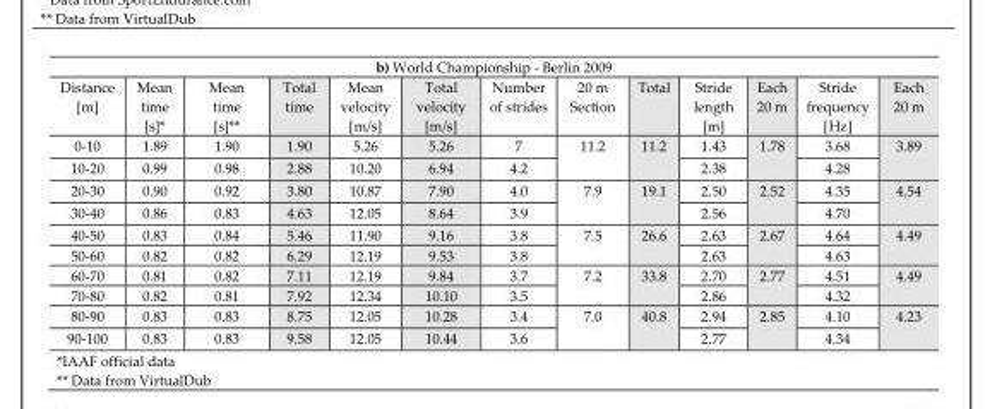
<table><thead><tr><td colspan="13">b) World Championship - Berlin 2009</td></tr><tr><td>Distance [m]</td><td>Mean time [s]*</td><td>Mean time [s]**</td><td>Total time</td><td>Mean velocity [m/s]</td><td>Total velocity [m/s]</td><td>Number of strides</td><td>20 m Section</td><td>Total</td><td>Stride length [m]</td><td>Each 20 m</td><td>Stride frequency [Hz]</td><td>Each 20 m</td></tr></thead><tbody><tr><td>0-10</td><td>1.89</td><td>1.90</td><td>1.90</td><td>5.26</td><td>5.26</td><td>7</td><td rowspan="2">11.2</td><td rowspan="2">11.2</td><td>1.43</td><td rowspan="2">1.78</td><td>3.68</td><td rowspan="2">3.89</td></tr><tr><td>10-20</td><td>0.99</td><td>0.98</td><td>2.88</td><td>10.20</td><td>6.94</td><td>4.2</td><td>2.38</td><td>4.28</td></tr><tr><td>20-30</td><td>0.90</td><td>0.92</td><td>3.80</td><td>10.87</td><td>7.90</td><td>4.0</td><td rowspan="2">7.9</td><td rowspan="2">19.1</td><td>2.50</td><td rowspan="2">2.52</td><td>4.35</td><td rowspan="2">4.54</td></tr><tr><td>30-40</td><td>0.86</td><td>0.83</td><td>4.63</td><td>12.05</td><td>8.64</td><td>3.9</td><td>2.56</td><td>4.70</td></tr><tr><td>40-50</td><td>0.83</td><td>0.84</td><td>5.46</td><td>11.90</td><td>9.16</td><td>3.8</td><td rowspan="2">7.5</td><td rowspan="2">26.6</td><td>2.63</td><td rowspan="2">2.67</td><td>4.64</td><td rowspan="2">4.49</td></tr><tr><td>50-60</td><td>0.82</td><td>0.82</td><td>6.29</td><td>12.19</td><td>9.53</td><td>3.8</td><td>2.63</td><td>4.63</td></tr><tr><td>60-70</td><td>0.81</td><td>0.82</td><td>7.11</td><td>12.19</td><td>9.84</td><td>3.7</td><td rowspan="2">7.2</td><td rowspan="2">33.8</td><td>2.70</td><td rowspan="2">2.77</td><td>4.51</td><td rowspan="2">4.49</td></tr><tr><td>70-80</td><td>0.82</td><td>0.81</td><td>7.92</td><td>12.34</td><td>10.10</td><td>3.5</td><td>2.86</td><td>4.32</td></tr><tr><td>80-90</td><td>0.83</td><td>0.83</td><td>8.75</td><td>12.05</td><td>10.28</td><td>3.4</td><td rowspan="2">7.0</td><td rowspan="2">40.8</td><td>2.94</td><td rowspan="2">2.85</td><td>4.10</td><td rowspan="2">4.23</td></tr><tr><td>90-100</td><td>0.83</td><td>0.83</td><td>9.58</td><td>12.05</td><td>10.44</td><td>3.6</td><td>2.77</td><td>4.34</td></tr></tbody></table>